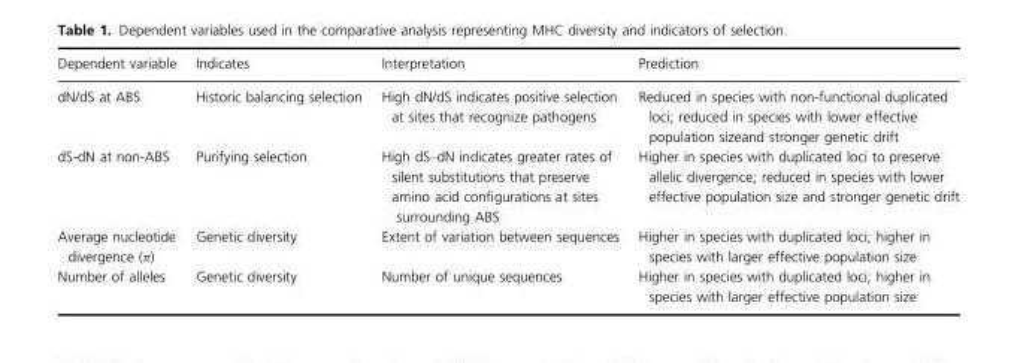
<table><thead><tr><td>Dependent variable</td><td>Indicates</td><td>Interpretation</td><td>Prediction</td></tr></thead><tbody><tr><td>dN/dS at ABS</td><td>Historic balancing selection</td><td>High dN/dS indicates positive selection at sites that recognize pathogens</td><td>Reduced in species with non-functional duplicated loci; reduced in species with lower effective population sizeand stronger genetic drift</td></tr><tr><td>dS-dN at non-ABS</td><td>Purifying selection</td><td>High dS–dN indicates greater rates of silent substitutions that preserve amino acid configurations at sites surrounding ABS</td><td>Higher in species with duplicated loci to preserve allelic divergence; reduced in species with lower effective population size and stronger genetic drift</td></tr><tr><td>Average nucleotide divergence (π)</td><td>Genetic diversity</td><td>Extent of variation between sequences</td><td>Higher in species with duplicated loci; higher in species with larger effective population size</td></tr><tr><td>Number of alleles</td><td>Genetic diversity</td><td>Number of unique sequences</td><td>Higher in species with duplicated loci; higher in species with larger effective population size</td></tr></tbody></table>